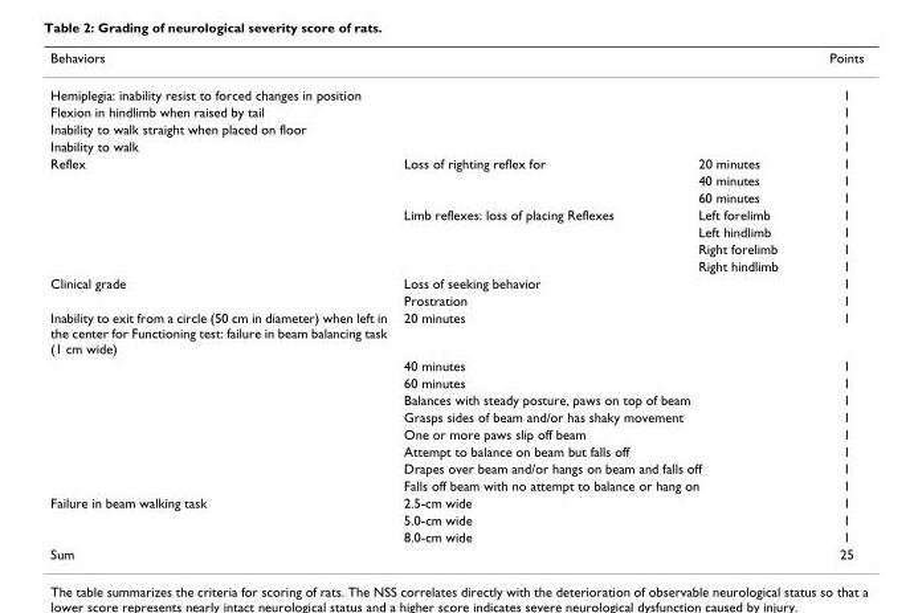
<table><thead><tr><td>Behaviors</td><td></td><td></td><td>Points</td></tr></thead><tbody><tr><td colspan="2">Hemiplegia: inability resist to forced changes in position</td><td></td><td>1</td></tr><tr><td colspan="2">Flexion in hindlimb when raised by tail</td><td></td><td>1</td></tr><tr><td colspan="2">Inability to walk straight when placed on floor</td><td></td><td>1</td></tr><tr><td>Inability to walk</td><td></td><td></td><td>1</td></tr><tr><td rowspan="7">Reflex</td><td>Loss of righting reflex for</td><td>20 minutes</td><td>1</td></tr><tr><td></td><td>40 minutes</td><td>1</td></tr><tr><td></td><td>60 minutes</td><td>1</td></tr><tr><td>Limb reflexes: loss of placing Reflexes</td><td>Left forelimb</td><td>1</td></tr><tr><td></td><td>Left hindlimb</td><td>1</td></tr><tr><td></td><td>Right forelimb</td><td>1</td></tr><tr><td></td><td>Right hindlimb</td><td>1</td></tr><tr><td rowspan="2">Clinical grade</td><td>Loss of seeking behavior</td><td></td><td>1</td></tr><tr><td>Prostration</td><td></td><td>1</td></tr><tr><td rowspan="9">Inability to exit from a circle (50 cm in diameter) when left in the center for Functioning test: failure in beam balancing task (1 cm wide)</td><td>20 minutes</td><td></td><td>1</td></tr><tr><td>40 minutes</td><td></td><td>1</td></tr><tr><td>60 minutes</td><td></td><td>1</td></tr><tr><td colspan="2">Balances with steady posture, paws on top of beam</td><td>1</td></tr><tr><td colspan="2">Grasps sides of beam and/or has shaky movement</td><td>1</td></tr><tr><td colspan="2">One or more paws slip off beam</td><td>1</td></tr><tr><td colspan="2">Attempt to balance on beam but falls off</td><td>1</td></tr><tr><td colspan="2">Drapes over beam and/or hangs on beam and falls off</td><td>1</td></tr><tr><td colspan="2">Falls off beam with no attempt to balance or hang on</td><td>1</td></tr><tr><td rowspan="3">Failure in beam walking task</td><td>2.5-cm wide</td><td></td><td>1</td></tr><tr><td>5.0-cm wide</td><td></td><td>1</td></tr><tr><td>8.0-cm wide</td><td></td><td>1</td></tr><tr><td>Sum</td><td></td><td></td><td>25</td></tr></tbody></table>